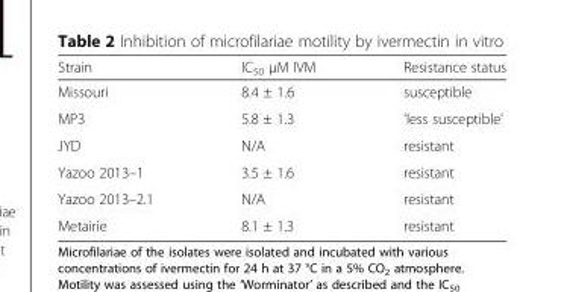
<table><thead><tr><td>Strain</td><td>IC<sub>50</sub> μM IVM</td><td>Resistance status</td></tr></thead><tbody><tr><td>Missouri</td><td>8.4 ± 1.6</td><td>susceptible</td></tr><tr><td>MP3</td><td>5.8 ± 1.3</td><td>‘less susceptible’</td></tr><tr><td>JYD</td><td>N/A</td><td>resistant</td></tr><tr><td>Yazoo 2013–1</td><td>3.5 ± 1.6</td><td>resistant</td></tr><tr><td>Yazoo 2013–2.1</td><td>N/A</td><td>resistant</td></tr><tr><td>Metairie</td><td>8.1 ± 1.3</td><td>resistant</td></tr></tbody></table>